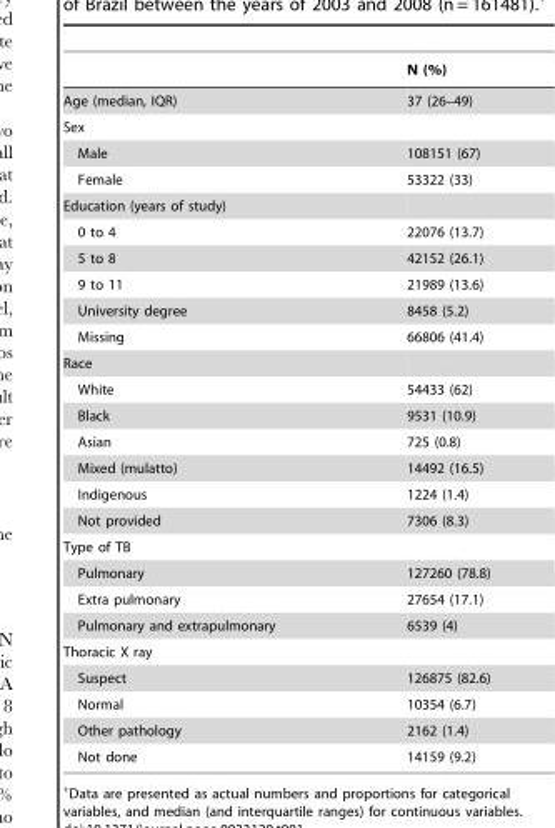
<table><thead><tr><td></td><td>N (%)</td></tr></thead><tbody><tr><td>Age (median, IQR)</td><td>37 (26–49)</td></tr><tr><td colspan="2">Sex</td></tr><tr><td>Male</td><td>108151 (67)</td></tr><tr><td>Female</td><td>53322 (33)</td></tr><tr><td colspan="2">Education (years of study)</td></tr><tr><td>0 to 4</td><td>22076 (13.7)</td></tr><tr><td>5 to 8</td><td>42152 (26.1)</td></tr><tr><td>9 to 11</td><td>21989 (13.6)</td></tr><tr><td>University degree</td><td>8458 (5.2)</td></tr><tr><td>Missing</td><td>66806 (41.4)</td></tr><tr><td colspan="2">Race</td></tr><tr><td>White</td><td>54433 (62)</td></tr><tr><td>Black</td><td>9531 (10.9)</td></tr><tr><td>Asian</td><td>725 (0.8)</td></tr><tr><td>Mixed (mulatto)</td><td>14492 (16.5)</td></tr><tr><td>Indigenous</td><td>1224 (1.4)</td></tr><tr><td>Not provided</td><td>7306 (8.3)</td></tr><tr><td colspan="2">Type of TB</td></tr><tr><td>Pulmonary</td><td>127260 (78.8)</td></tr><tr><td>Extra pulmonary</td><td>27654 (17.1)</td></tr><tr><td>Pulmonary and extrapulmonary</td><td>6539 (4)</td></tr><tr><td colspan="2">Thoracic X ray</td></tr><tr><td>Suspect</td><td>126875 (82.6)</td></tr><tr><td>Normal</td><td>10354 (6.7)</td></tr><tr><td>Other pathology</td><td>2162 (1.4)</td></tr><tr><td>Not done</td><td>14159 (9.2)</td></tr></tbody></table>